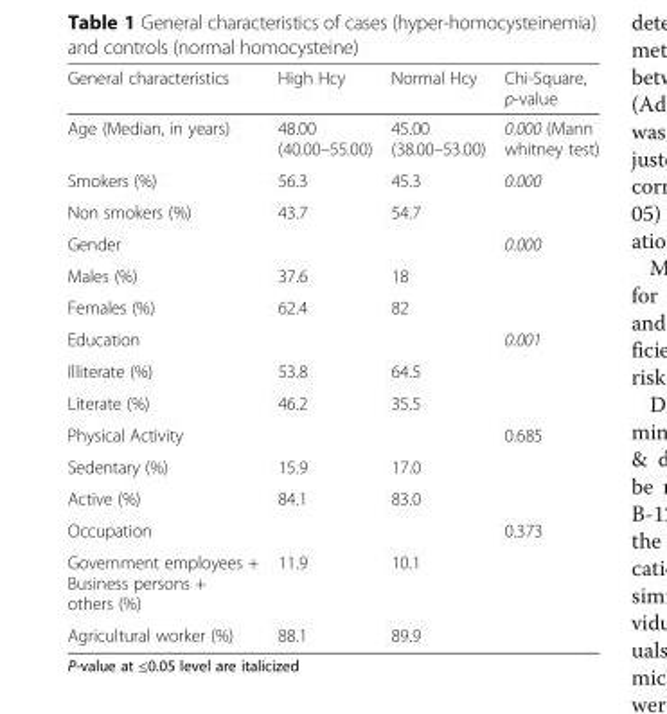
<table><thead><tr><td>General characteristics</td><td>High Hcy</td><td>Normal Hcy</td><td>Chi-Square, p-value</td></tr></thead><tbody><tr><td>Age (Median, in years)</td><td>48.00 (40.00–55.00)</td><td>45.00 (38.00–53.00)</td><td>0.000 (Mann whitney test)</td></tr><tr><td>Smokers (%)</td><td>56.3</td><td>45.3</td><td rowspan="2">0.000</td></tr><tr><td>Non smokers (%)</td><td>43.7</td><td>54.7</td></tr><tr><td colspan="3">Gender</td><td rowspan="3">0.000</td></tr><tr><td>Males (%)</td><td>37.6</td><td>18</td></tr><tr><td>Females (%)</td><td>62.4</td><td>82</td></tr><tr><td colspan="3">Education</td><td rowspan="3">0.001</td></tr><tr><td>Illiterate (%)</td><td>53.8</td><td>64.5</td></tr><tr><td>Literate (%)</td><td>46.2</td><td>35.5</td></tr><tr><td colspan="3">Physical Activity</td><td rowspan="3">0.685</td></tr><tr><td>Sedentary (%)</td><td>15.9</td><td>17.0</td></tr><tr><td>Active (%)</td><td>84.1</td><td>83.0</td></tr><tr><td colspan="3">Occupation</td><td rowspan="3">0.373</td></tr><tr><td>Government employees + Business persons + others (%)</td><td>11.9</td><td>10.1</td></tr><tr><td>Agricultural worker (%)</td><td>88.1</td><td>89.9</td></tr></tbody></table>